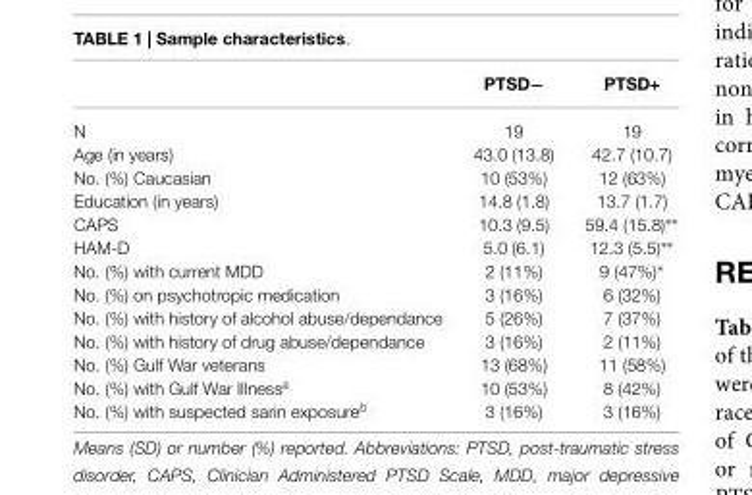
<table><thead><tr><td></td><td>PTSD−</td><td>PTSD+</td></tr></thead><tbody><tr><td>N</td><td>19</td><td>19</td></tr><tr><td>Age (in years)</td><td>43.0 (13.8)</td><td>42.7 (10.7)</td></tr><tr><td>No. (%) Caucasian</td><td>10 (53%)</td><td>12 (63%)</td></tr><tr><td>Education (in years)</td><td>14.8 (1.8)</td><td>13.7 (1.7)</td></tr><tr><td>CAPS</td><td>10.3 (9.5)</td><td>59.4 (15.8)∗∗</td></tr><tr><td>HAM-D</td><td>5.0 (6.1)</td><td>12.3 (5.5)∗∗</td></tr><tr><td>No. (%) with current MDD</td><td>2 (11%)</td><td>9 (47%)∗</td></tr><tr><td>No. (%) on psychotropic medication</td><td>3 (16%)</td><td>6 (32%)</td></tr><tr><td>No. (%) with history of alcohol abuse/dependance</td><td>5 (26%)</td><td>7 (37%)</td></tr><tr><td>No. (%) with history of drug abuse/dependance</td><td>3 (16%)</td><td>2 (11%)</td></tr><tr><td>No. (%) Gulf War veterans</td><td>13 (68%)</td><td>11 (58%)</td></tr><tr><td>No. (%) with Gulf War Illness<sup>a</sup></td><td>10 (53%)</td><td>8 (42%)</td></tr><tr><td>No. (%) with suspected sarin exposure<sup>b</sup></td><td>3 (16%)</td><td>3 (16%)</td></tr></tbody></table>